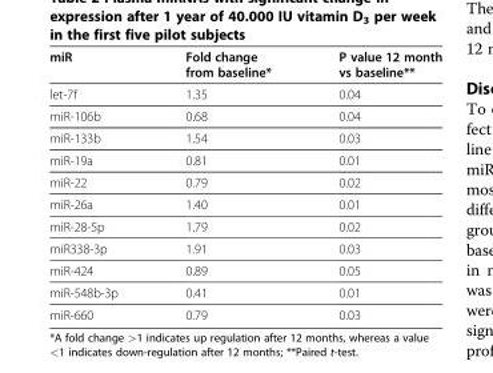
<table><thead><tr><td>miR</td><td>Fold change from baseline*</td><td>P value 12 month vs baseline**</td></tr></thead><tbody><tr><td>let-7f</td><td>1.35</td><td>0.04</td></tr><tr><td>miR-106b</td><td>0.68</td><td>0.04</td></tr><tr><td>miR-133b</td><td>1.54</td><td>0.03</td></tr><tr><td>miR-19a</td><td>0.81</td><td>0.01</td></tr><tr><td>miR-22</td><td>0.79</td><td>0.02</td></tr><tr><td>miR-26a</td><td>1.40</td><td>0.01</td></tr><tr><td>miR-28-5p</td><td>1.79</td><td>0.02</td></tr><tr><td>miR338-3p</td><td>1.91</td><td>0.03</td></tr><tr><td>miR-424</td><td>0.89</td><td>0.05</td></tr><tr><td>miR-548b-3p</td><td>0.41</td><td>0.01</td></tr><tr><td>miR-660</td><td>0.79</td><td>0.03</td></tr></tbody></table>